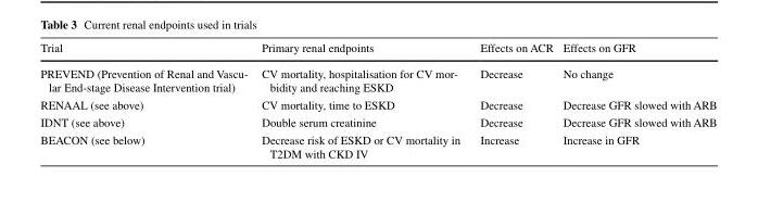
<table><thead><tr><td>Trial</td><td>Primary renal endpoints</td><td>Effects on ACR</td><td>Effects on GFR</td></tr></thead><tbody><tr><td>PREVEND (Prevention of Renal and Vascu- lar End-stage Disease Intervention trial)</td><td>CV mortality, hospitalisation for CV mor- bidity and reaching ESKD</td><td>Decrease</td><td>No change</td></tr><tr><td>RENAAL (see above)</td><td>CV mortality, time to ESKD</td><td>Decrease</td><td>Decrease GFR slowed with ARB</td></tr><tr><td>IDNT (see above)</td><td>Double serum creatinine</td><td>Decrease</td><td>Decrease GFR slowed with ARB</td></tr><tr><td>BEACON (see below)</td><td>Decrease risk of ESKD or CV mortality in T2DM with CKD IV</td><td>Increase</td><td>Increase in GFR</td></tr></tbody></table>